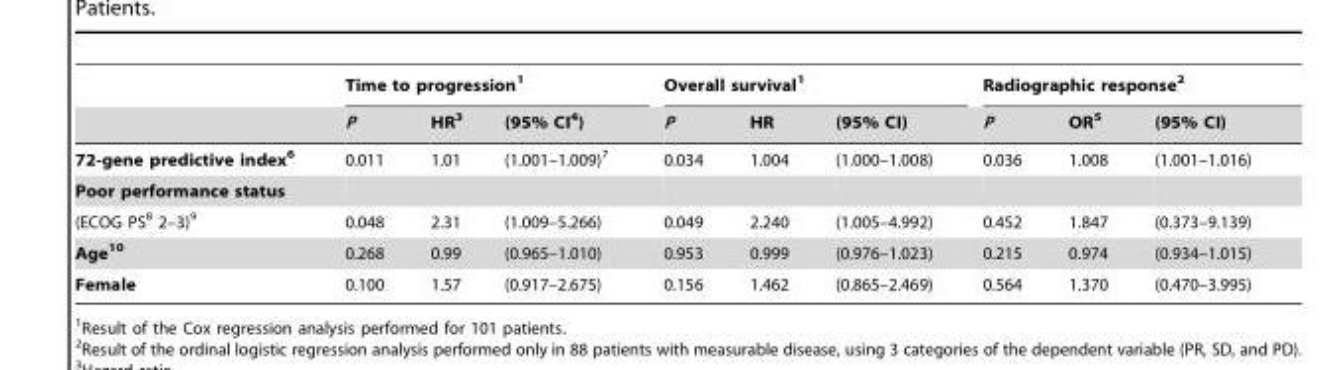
<table><thead><tr><td rowspan="2"></td><td colspan="3">Time to progression<sup>1</sup></td><td colspan="3">Overall survival<sup>1</sup></td><td colspan="3">Radiographic response<sup>2</sup></td></tr><tr><td>P</td><td>HR<sup>3</sup></td><td>(95% CI<sup>4</sup>)</td><td>P</td><td>HR</td><td>(95% CI)</td><td>P</td><td>OR<sup>5</sup></td><td>(95% CI)</td></tr></thead><tbody><tr><td>72-gene predictive index6</td><td>0.011</td><td>1.01</td><td>(1.001–1.009)<sup>7</sup></td><td>0.034</td><td>1.004</td><td>(1.000–1.008)</td><td>0.036</td><td>1.008</td><td>(1.001–1.016)</td></tr><tr><td colspan="10">Poor performance status</td></tr><tr><td>(ECOG PS<sup>8</sup> 2–3)<sup>9</sup></td><td>0.048</td><td>2.31</td><td>(1.009–5.266)</td><td>0.049</td><td>2.240</td><td>(1.005–4.992)</td><td>0.452</td><td>1.847</td><td>(0.373–9.139)</td></tr><tr><td>Age10</td><td>0.268</td><td>0.99</td><td>(0.965–1.010)</td><td>0.953</td><td>0.999</td><td>(0.976–1.023)</td><td>0.215</td><td>0.974</td><td>(0.934–1.015)</td></tr><tr><td>Female</td><td>0.100</td><td>1.57</td><td>(0.917–2.675)</td><td>0.156</td><td>1.462</td><td>(0.865–2.469)</td><td>0.564</td><td>1.370</td><td>(0.470–3.995)</td></tr></tbody></table>